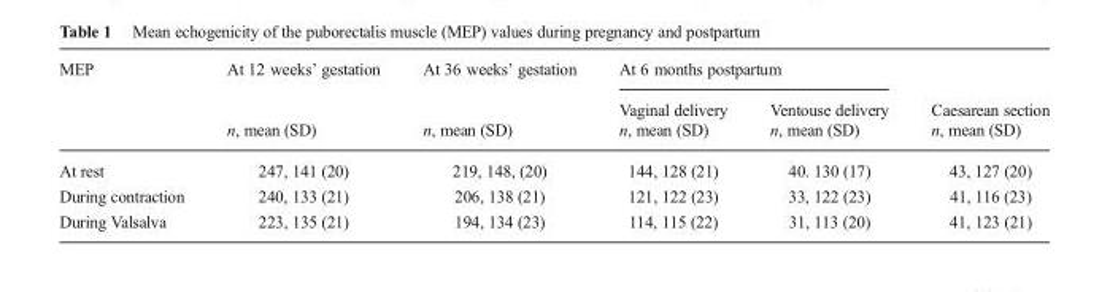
<table><thead><tr><td rowspan="3">MEP</td><td rowspan="3">At 12 weeks’ gestation n, mean (SD)</td><td rowspan="3">At 36 weeks’ gestation n, mean (SD)</td><td colspan="2">At 6 months postpartum</td><td rowspan="3">Caesarean section n, mean (SD)</td></tr><tr><td rowspan="2">Vaginal delivery n, mean (SD)</td><td rowspan="2">Ventouse delivery n, mean (SD)</td></tr><tr></tr></thead><tbody><tr><td>At rest</td><td>247, 141 (20)</td><td>219, 148, (20)</td><td>144, 128 (21)</td><td>40. 130 (17)</td><td>43, 127 (20)</td></tr><tr><td>During contraction</td><td>240, 133 (21)</td><td>206, 138 (21)</td><td>121, 122 (23)</td><td>33, 122 (23)</td><td>41, 116 (23)</td></tr><tr><td>During Valsalva</td><td>223, 135 (21)</td><td>194, 134 (23)</td><td>114, 115 (22)</td><td>31, 113 (20)</td><td>41, 123 (21)</td></tr></tbody></table>